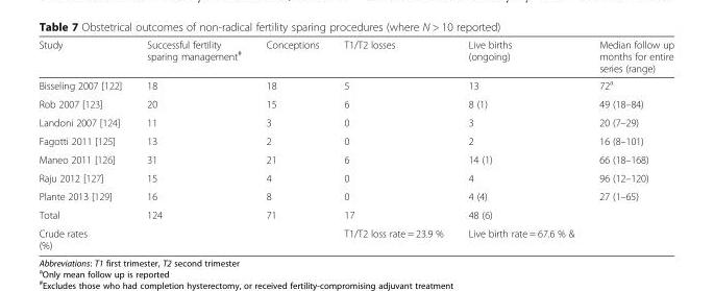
<table><thead><tr><td>Study</td><td>Successful fertility sparing management<sup>#</sup></td><td>Conceptions</td><td>T1/T2 losses</td><td>Live births (ongoing)</td><td>Median follow up months for entire series (range)</td></tr></thead><tbody><tr><td>Bisseling 2007 [122]</td><td>18</td><td>18</td><td>5</td><td>13</td><td>72<sup>a</sup></td></tr><tr><td>Rob 2007 [123]</td><td>20</td><td>15</td><td>6</td><td>8 (1)</td><td>49 (18–84)</td></tr><tr><td>Landoni 2007 [124]</td><td>11</td><td>3</td><td>0</td><td>3</td><td>20 (7–29)</td></tr><tr><td>Fagotti 2011 [125]</td><td>13</td><td>2</td><td>0</td><td>2</td><td>16 (8–101)</td></tr><tr><td>Maneo 2011 [126]</td><td>31</td><td>21</td><td>6</td><td>14 (1)</td><td>66 (18–168)</td></tr><tr><td>Raju 2012 [127]</td><td>15</td><td>4</td><td>0</td><td>4</td><td>96 (12–120)</td></tr><tr><td>Plante 2013 [129]</td><td>16</td><td>8</td><td>0</td><td>4 (4)</td><td>27 (1–65)</td></tr><tr><td>Total</td><td>124</td><td>71</td><td>17</td><td>48 (6)</td><td></td></tr><tr><td>Crude rates (%)</td><td></td><td></td><td>T1/T2 loss rate = 23.9 %</td><td>Live birth rate = 67.6 % &amp;</td><td></td></tr></tbody></table>